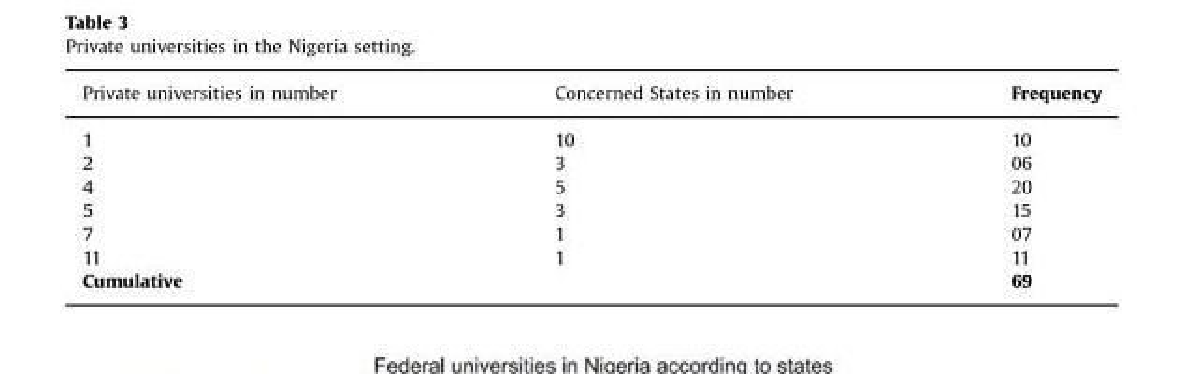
<table><thead><tr><td>Private universities in number</td><td>Concerned States in number</td><td>Frequency</td></tr></thead><tbody><tr><td>1</td><td>10</td><td>10</td></tr><tr><td>2</td><td>3</td><td>06</td></tr><tr><td>4</td><td>5</td><td>20</td></tr><tr><td>5</td><td>3</td><td>15</td></tr><tr><td>7</td><td>1</td><td>07</td></tr><tr><td>11</td><td>1</td><td>11</td></tr><tr><td colspan="2">Cumulative</td><td>69</td></tr></tbody></table>